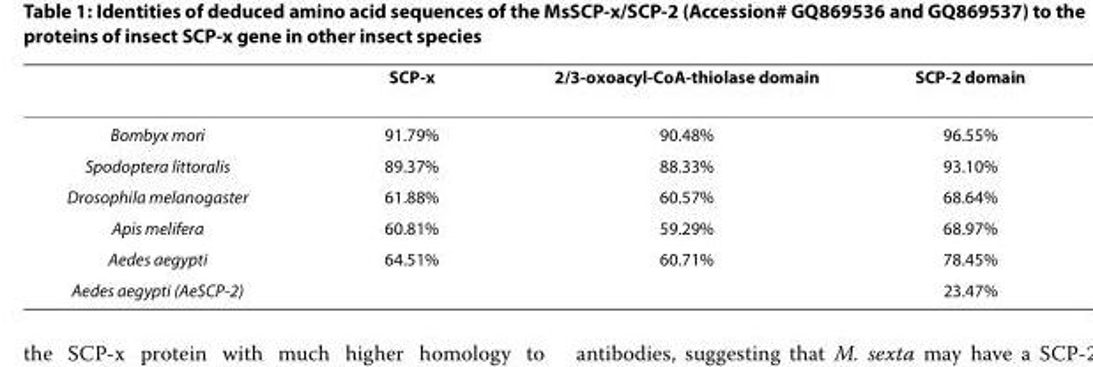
<table><thead><tr><td></td><td>SCP-x</td><td>2/3-oxoacyl-CoA-thiolase domain</td><td>SCP-2 domain</td></tr></thead><tbody><tr><td>Bombyx mori</td><td>91.79%</td><td>90.48%</td><td>96.55%</td></tr><tr><td>Spodoptera littoralis</td><td>89.37%</td><td>88.33%</td><td>93.10%</td></tr><tr><td>Drosophila melanogaster</td><td>61.88%</td><td>60.57%</td><td>68.64%</td></tr><tr><td>Apis melifera</td><td>60.81%</td><td>59.29%</td><td>68.97%</td></tr><tr><td>Aedes aegypti</td><td>64.51%</td><td>60.71%</td><td>78.45%</td></tr><tr><td>Aedes aegypti (AeSCP-2)</td><td></td><td></td><td>23.47%</td></tr></tbody></table>